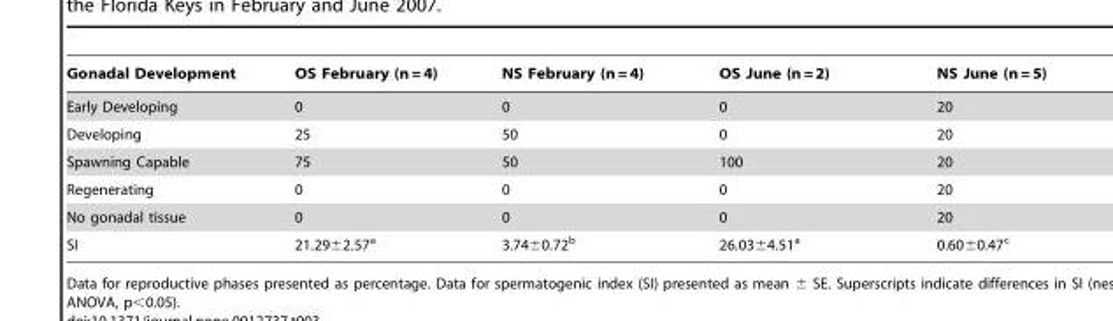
<table><thead><tr><td>Gonadal Development</td><td>OS February (n = 4)</td><td>NS February (n = 4)</td><td>OS June (n = 2)</td><td>NS June (n = 5)</td></tr></thead><tbody><tr><td>Early Developing</td><td>0</td><td>0</td><td>0</td><td>20</td></tr><tr><td>Developing</td><td>25</td><td>50</td><td>0</td><td>20</td></tr><tr><td>Spawning Capable</td><td>75</td><td>50</td><td>100</td><td>20</td></tr><tr><td>Regenerating</td><td>0</td><td>0</td><td>0</td><td>20</td></tr><tr><td>No gonadal tissue</td><td>0</td><td>0</td><td>0</td><td>20</td></tr><tr><td>SI</td><td>21.29±2.57<sup>a</sup></td><td>3.74±0.72<sup>b</sup></td><td>26.03±4.51<sup>a</sup></td><td>0.60±0.47<sup>c</sup></td></tr></tbody></table>